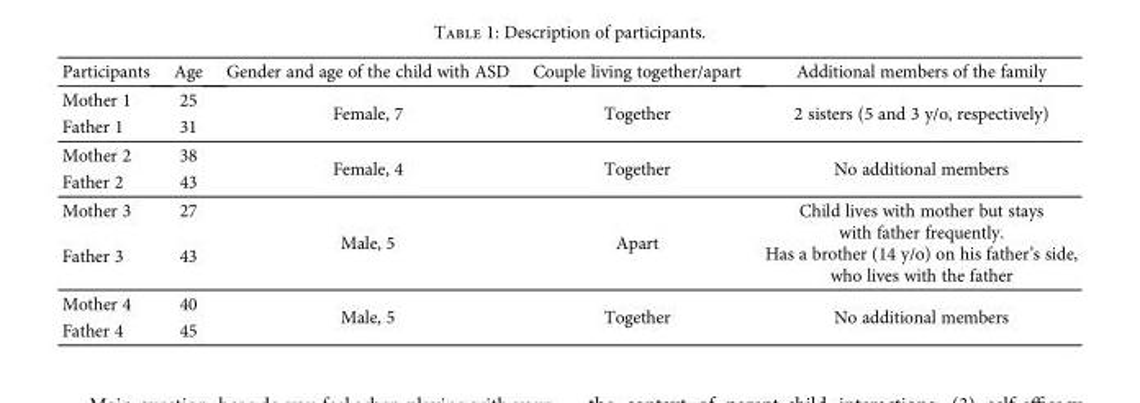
<table><thead><tr><td>Participants</td><td>Age</td><td>Gender and age of the child with ASD</td><td>Couple living together/apart</td><td>Additional members of the family</td></tr></thead><tbody><tr><td>Mother 1</td><td>25</td><td rowspan="2">Female, 7</td><td rowspan="2">Together</td><td rowspan="2">2 sisters (5 and 3 y/o, respectively)</td></tr><tr><td>Father 1</td><td>31</td></tr><tr><td>Mother 2</td><td>38</td><td rowspan="2">Female, 4</td><td rowspan="2">Together</td><td rowspan="2">No additional members</td></tr><tr><td>Father 2</td><td>43</td></tr><tr><td>Mother 3</td><td>27</td><td rowspan="2">Male, 5</td><td rowspan="2">Apart</td><td rowspan="2">Child lives with mother but stays with father frequently. Has a brother (14 y/o) on his father’s side, who lives with the father</td></tr><tr><td>Father 3</td><td>43</td></tr><tr><td>Mother 4</td><td>40</td><td rowspan="2">Male, 5</td><td rowspan="2">Together</td><td rowspan="2">No additional members</td></tr><tr><td>Father 4</td><td>45</td></tr></tbody></table>